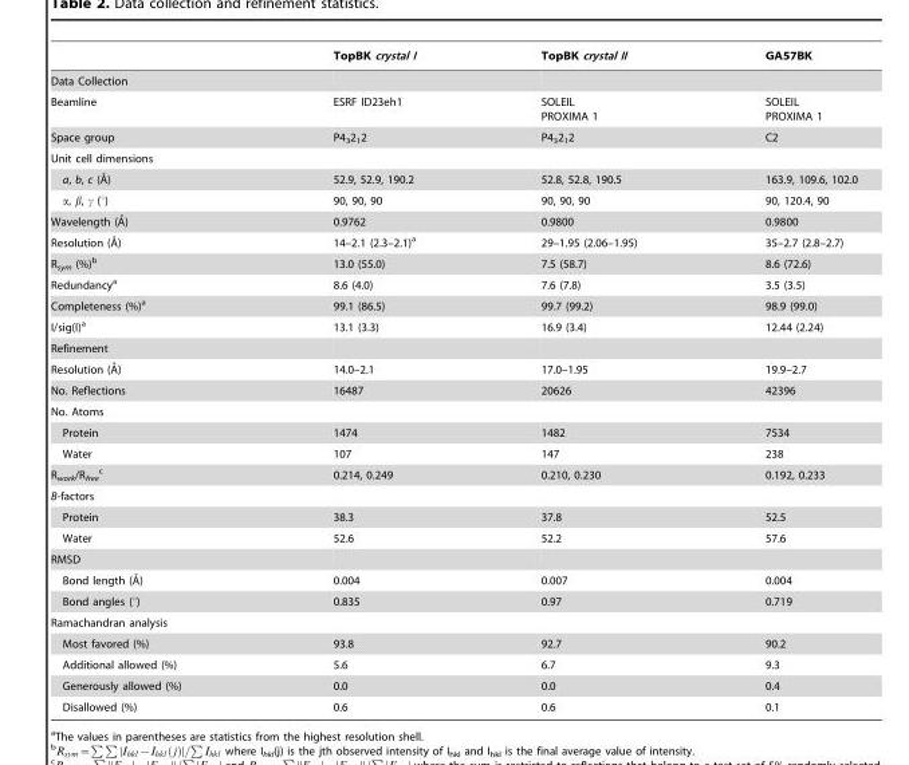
<table><thead><tr><td></td><td>TopBK crystal I</td><td>TopBK crystal II</td><td>GA57BK</td></tr></thead><tbody><tr><td colspan="4">Data Collection</td></tr><tr><td>Beamline</td><td>ESRF ID23eh1</td><td>SOLEIL PROXIMA 1</td><td>SOLEIL PROXIMA 1</td></tr><tr><td>Space group</td><td>P4<sub>3</sub>2<sub>1</sub>2</td><td>P4<sub>3</sub>2<sub>1</sub>2</td><td>C2</td></tr><tr><td colspan="4">Unit cell dimensions</td></tr><tr><td>a, b, c (A˚)</td><td>52.9, 52.9, 190.2</td><td>52.8, 52.8, 190.5</td><td>163.9, 109.6, 102.0</td></tr><tr><td>α, β, γ (°)</td><td>90, 90, 90</td><td>90, 90, 90</td><td>90, 120.4, 90</td></tr><tr><td>Wavelength (A˚)</td><td>0.9762</td><td>0.9800</td><td>0.9800</td></tr><tr><td>Resolution (A˚)</td><td>14–2.1 (2.3–2.1)<sup>a</sup></td><td>29–1.95 (2.06–1.95)</td><td>35–2.7 (2.8–2.7)</td></tr><tr><td>R<sub>sym</sub> (%)<sup>b</sup></td><td>13.0 (55.0)</td><td>7.5 (58.7)</td><td>8.6 (72.6)</td></tr><tr><td>Redundancy<sup>a</sup></td><td>8.6 (4.0)</td><td>7.6 (7.8)</td><td>3.5 (3.5)</td></tr><tr><td>Completeness (%)<sup>a</sup></td><td>99.1 (86.5)</td><td>99.7 (99.2)</td><td>98.9 (99.0)</td></tr><tr><td>I/sig(I)<sup>a</sup></td><td>13.1 (3.3)</td><td>16.9 (3.4)</td><td>12.44 (2.24)</td></tr><tr><td colspan="4">Refinement</td></tr><tr><td>Resolution (A˚)</td><td>14.0–2.1</td><td>17.0–1.95</td><td>19.9–2.7</td></tr><tr><td>No. Reflections</td><td>16487</td><td>20626</td><td>42396</td></tr><tr><td colspan="4">No. Atoms</td></tr><tr><td>Protein</td><td>1474</td><td>1482</td><td>7534</td></tr><tr><td>Water</td><td>107</td><td>147</td><td>238</td></tr><tr><td>R<sub>work</sub>/R<sub>free</sub> c</td><td>0.214, 0.249</td><td>0.210, 0.230</td><td>0.192, 0.233</td></tr><tr><td colspan="4">B-factors</td></tr><tr><td>Protein</td><td>38.3</td><td>37.8</td><td>52.5</td></tr><tr><td>Water</td><td>52.6</td><td>52.2</td><td>57.6</td></tr><tr><td colspan="4">RMSD</td></tr><tr><td>Bond length (A˚)</td><td>0.004</td><td>0.007</td><td>0.004</td></tr><tr><td>Bond angles (°)</td><td>0.835</td><td>0.97</td><td>0.719</td></tr><tr><td colspan="4">Ramachandran analysis</td></tr><tr><td>Most favored (%)</td><td>93.8</td><td>92.7</td><td>90.2</td></tr><tr><td>Additional allowed (%)</td><td>5.6</td><td>6.7</td><td>9.3</td></tr><tr><td>Generously allowed (%)</td><td>0.0</td><td>0.0</td><td>0.4</td></tr><tr><td>Disallowed (%)</td><td>0.6</td><td>0.6</td><td>0.1</td></tr></tbody></table>